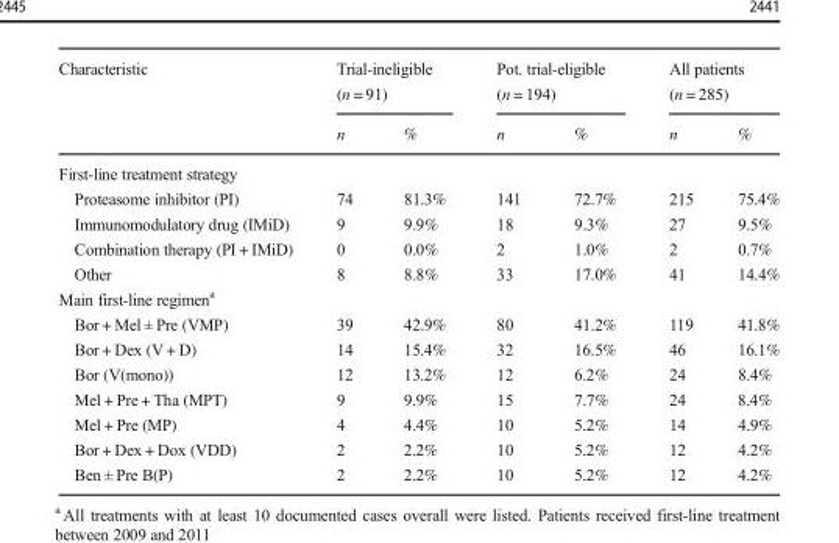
<table><thead><tr><td rowspan="2">Characteristic</td><td colspan="2">Trial-ineligible (n = 91)</td><td colspan="2">Pot. trial-eligible (n = 194)</td><td colspan="2">All patients (n = 285)</td></tr><tr><td>n</td><td>%</td><td>n</td><td>%</td><td>n</td><td>%</td></tr></thead><tbody><tr><td colspan="7">First-line treatment strategy</td></tr><tr><td>Proteasome inhibitor (PI)</td><td>74</td><td>81.3%</td><td>141</td><td>72.7%</td><td>215</td><td>75.4%</td></tr><tr><td>Immunomodulatory drug (IMiD)</td><td>9</td><td>9.9%</td><td>18</td><td>9.3%</td><td>27</td><td>9.5%</td></tr><tr><td>Combination therapy (PI + IMiD)</td><td>0</td><td>0.0%</td><td>2</td><td>1.0%</td><td>2</td><td>0.7%</td></tr><tr><td>Other</td><td>8</td><td>8.8%</td><td>33</td><td>17.0%</td><td>41</td><td>14.4%</td></tr><tr><td colspan="7">Main first-line regimen<sup>a</sup></td></tr><tr><td>Bor + Mel ± Pre (VMP)</td><td>39</td><td>42.9%</td><td>80</td><td>41.2%</td><td>119</td><td>41.8%</td></tr><tr><td>Bor + Dex (V + D)</td><td>14</td><td>15.4%</td><td>32</td><td>16.5%</td><td>46</td><td>16.1%</td></tr><tr><td>Bor (V(mono))</td><td>12</td><td>13.2%</td><td>12</td><td>6.2%</td><td>24</td><td>8.4%</td></tr><tr><td>Mel + Pre + Tha (MPT)</td><td>9</td><td>9.9%</td><td>15</td><td>7.7%</td><td>24</td><td>8.4%</td></tr><tr><td>Mel + Pre (MP)</td><td>4</td><td>4.4%</td><td>10</td><td>5.2%</td><td>14</td><td>4.9%</td></tr><tr><td>Bor + Dex + Dox (VDD)</td><td>2</td><td>2.2%</td><td>10</td><td>5.2%</td><td>12</td><td>4.2%</td></tr><tr><td>Ben ± Pre B(P)</td><td>2</td><td>2.2%</td><td>10</td><td>5.2%</td><td>12</td><td>4.2%</td></tr></tbody></table>